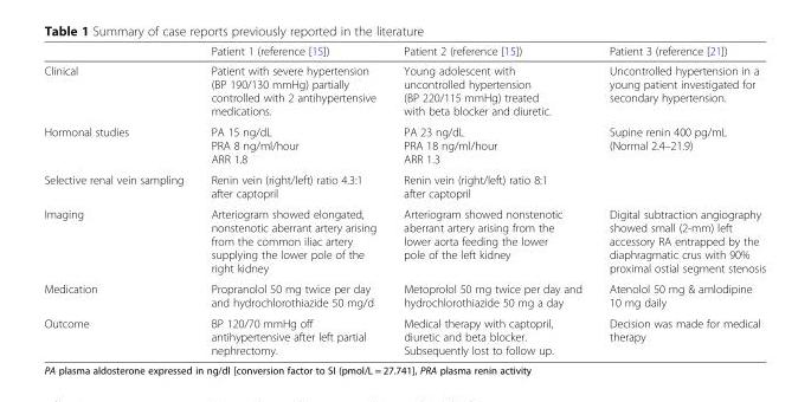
<table><thead><tr><td></td><td>Patient 1 (reference [15])</td><td>Patient 2 (reference [15])</td><td>Patient 3 (reference [21])</td></tr></thead><tbody><tr><td>Clinical</td><td>Patient with severe hypertension (BP 190/130 mmHg) partially controlled with 2 antihypertensive medications.</td><td>Young adolescent with uncontrolled hypertension (BP 220/115 mmHg) treated with beta blocker and diuretic.</td><td>Uncontrolled hypertension in a young patient investigated for secondary hypertension.</td></tr><tr><td>Hormonal studies</td><td>PA 15 ng/dL PRA 8 ng/ml/hour ARR 1.8</td><td>PA 23 ng/dL PRA 18 ng/ml/hour ARR 1.3</td><td>Supine renin 400 pg/mL (Normal 2.4–21.9)</td></tr><tr><td>Selective renal vein sampling</td><td>Renin vein (right/left) ratio 4.3:1 after captopril</td><td>Renin vein (right/left) ratio 8:1 after captopril</td><td></td></tr><tr><td>Imaging</td><td>Arteriogram showed elongated, nonstenotic aberrant artery arising from the common iliac artery supplying the lower pole of the right kidney</td><td>Arteriogram showed nonstenotic aberrant artery arising from the lower aorta feeding the lower pole of the left kidney</td><td>Digital subtraction angiography showed small (2-mm) left accessory RA entrapped by the diaphragmatic crus with 90% proximal ostial segment stenosis</td></tr><tr><td>Medication</td><td>Propranolol 50 mg twice per day and hydrochlorothiazide 50 mg/d</td><td>Metoprolol 50 mg twice per day and hydrochlorothiazide 50 mg a day</td><td>Atenolol 50 mg &amp; amlodipine 10 mg daily</td></tr><tr><td>Outcome</td><td>BP 120/70 mmHg off antihypertensive after left partial nephrectomy.</td><td>Medical therapy with captopril, diuretic and beta blocker. Subsequently lost to follow up.</td><td>Decision was made for medical therapy</td></tr></tbody></table>